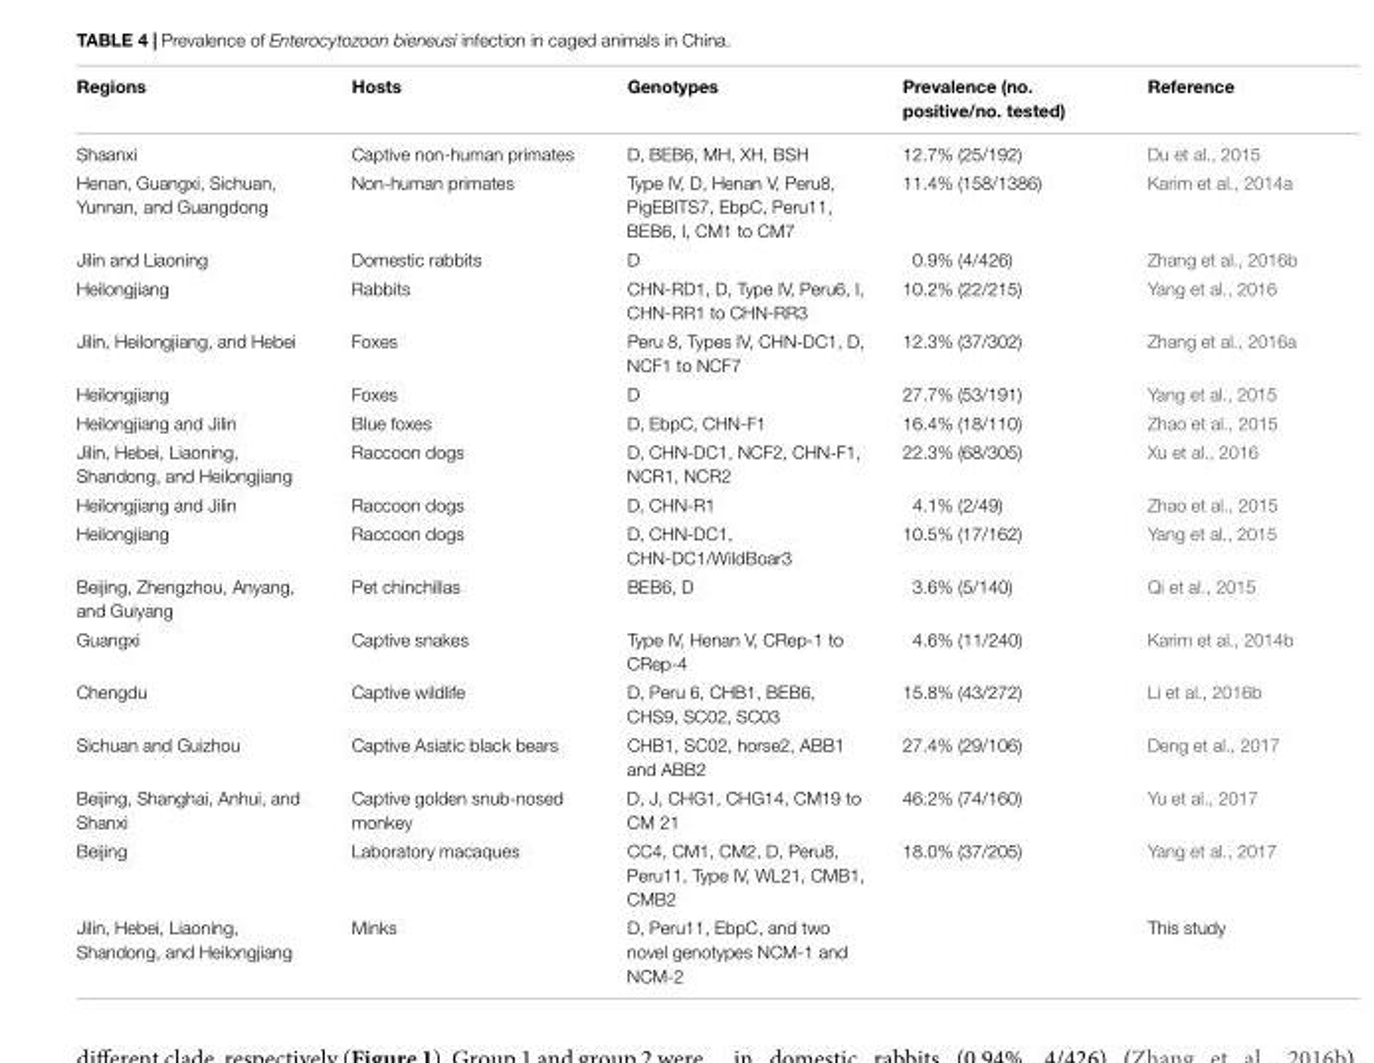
<table><thead><tr><td>Regions</td><td>Hosts</td><td>Genotypes</td><td>Prevalence (no. positive/no. tested)</td><td>Reference</td></tr></thead><tbody><tr><td>Shaanxi</td><td>Captive non-human primates</td><td>D, BEB6, MH, XH, BSH</td><td>12.7% (25/192)</td><td>Du et al., 2015</td></tr><tr><td>Henan, Guangxi, Sichuan, Yunnan, and Guangdong</td><td>Non-human primates</td><td>Type IV, D, Henan V, Peru8, PigEBITS7, EbpC, Peru11, BEB6, I, CM1 to CM7</td><td>11.4% (158/1386)</td><td>Karim et al., 2014a</td></tr><tr><td>Jilin and Liaoning</td><td>Domestic rabbits</td><td>D</td><td>0.9% (4/426)</td><td>Zhang et al., 2016b</td></tr><tr><td>Heilongjiang</td><td>Rabbits</td><td>CHN-RD1, D, Type IV, Peru6, I, CHN-RR1 to CHN-RR3</td><td>10.2% (22/215)</td><td>Yang et al., 2016</td></tr><tr><td>Jilin, Heilongjiang, and Hebei</td><td>Foxes</td><td>Peru 8, Types IV, CHN-DC1, D, NCF1 to NCF7</td><td>12.3% (37/302)</td><td>Zhang et al., 2016a</td></tr><tr><td>Heilongjiang</td><td>Foxes</td><td>D</td><td>27.7% (53/191)</td><td>Yang et al., 2015</td></tr><tr><td>Heilongjiang and Jilin</td><td>Blue foxes</td><td>D, EbpC, CHN-F1</td><td>16.4% (18/110)</td><td>Zhao et al., 2015</td></tr><tr><td>Jilin, Hebei, Liaoning, Shandong, and Heilongjiang</td><td>Raccoon dogs</td><td>D, CHN-DC1, NCF2, CHN-F1, NCR1, NCR2</td><td>22.3% (68/305)</td><td>Xu et al., 2016</td></tr><tr><td>Heilongjiang and Jilin</td><td>Raccoon dogs</td><td>D, CHN-R1</td><td>4.1% (2/49)</td><td>Zhao et al., 2015</td></tr><tr><td>Heilongjiang</td><td>Raccoon dogs</td><td>D, CHN-DC1, CHN-DC1/WildBoar3</td><td>10.5% (17/162)</td><td>Yang et al., 2015</td></tr><tr><td>Beijing, Zhengzhou, Anyang, and Guiyang</td><td>Pet chinchillas</td><td>BEB6, D</td><td>3.6% (5/140)</td><td>Qi et al., 2015</td></tr><tr><td>Guangxi</td><td>Captive snakes</td><td>Type IV, Henan V, CRep-1 to CRep-4</td><td>4.6% (11/240)</td><td>Karim et al., 2014b</td></tr><tr><td>Chengdu</td><td>Captive wildlife</td><td>D, Peru 6, CHB1, BEB6, CHS9, SC02, SC03</td><td>15.8% (43/272)</td><td>Li et al., 2016b</td></tr><tr><td>Sichuan and Guizhou</td><td>Captive Asiatic black bears</td><td>CHB1, SC02, horse2, ABB1 and ABB2</td><td>27.4% (29/106)</td><td>Deng et al., 2017</td></tr><tr><td>Beijing, Shanghai, Anhui, and Shanxi</td><td>Captive golden snub-nosed monkey</td><td>D, J, CHG1, CHG14, CM19 to CM 21</td><td>46.2% (74/160)</td><td>Yu et al., 2017</td></tr><tr><td>Beijing</td><td>Laboratory macaques</td><td>CC4, CM1, CM2, D, Peru8, Peru11, Type IV, WL21, CMB1, CMB2</td><td>18.0% (37/205)</td><td>Yang et al., 2017</td></tr><tr><td>Jilin, Hebei, Liaoning, Shandong, and Heilongjiang</td><td>Minks</td><td>D, Peru11, EbpC, and two novel genotypes NCM-1 and NCM-2</td><td></td><td>This study</td></tr></tbody></table>